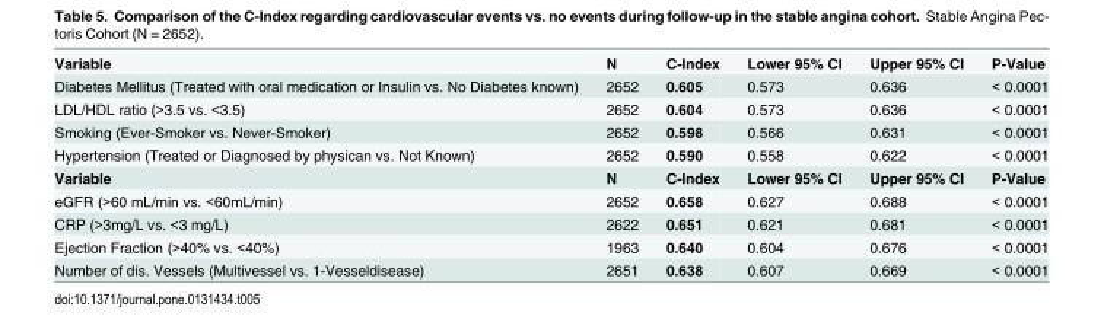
<table><tbody><tr><td>Variable</td><td>N</td><td>C-Index</td><td>Lower 95% CI</td><td>Upper 95% CI</td><td>P-Value</td></tr><tr><td>Diabetes Mellitus (Treated with oral medication or Insulin vs. No Diabetes known)</td><td>2652</td><td>0.605</td><td>0.573</td><td>0.636</td><td>&lt; 0.0001</td></tr><tr><td>LDL/HDL ratio (&gt;3.5 vs. &lt;3.5)</td><td>2652</td><td>0.604</td><td>0.573</td><td>0.636</td><td>&lt; 0.0001</td></tr><tr><td>Smoking (Ever-Smoker vs. Never-Smoker)</td><td>2652</td><td>0.598</td><td>0.566</td><td>0.631</td><td>&lt; 0.0001</td></tr><tr><td>Hypertension (Treated or Diagnosed by physican vs. Not Known)</td><td>2652</td><td>0.590</td><td>0.558</td><td>0.622</td><td>&lt; 0.0001</td></tr><tr><td>Variable</td><td>N</td><td>C-Index</td><td>Lower 95% CI</td><td>Upper 95% CI</td><td>P-Value</td></tr><tr><td>eGFR (&gt;60 mL/min vs. &lt;60mL/min)</td><td>2652</td><td>0.658</td><td>0.627</td><td>0.688</td><td>&lt; 0.0001</td></tr><tr><td>CRP (&gt;3mg/L vs. &lt;3 mg/L)</td><td>2622</td><td>0.651</td><td>0.621</td><td>0.681</td><td>&lt; 0.0001</td></tr><tr><td>Ejection Fraction (&gt;40% vs. &lt;40%)</td><td>1963</td><td>0.640</td><td>0.604</td><td>0.676</td><td>&lt; 0.0001</td></tr><tr><td>Number of dis. Vessels (Multivessel vs. 1-Vesseldisease)</td><td>2651</td><td>0.638</td><td>0.607</td><td>0.669</td><td>&lt; 0.0001</td></tr></tbody></table>